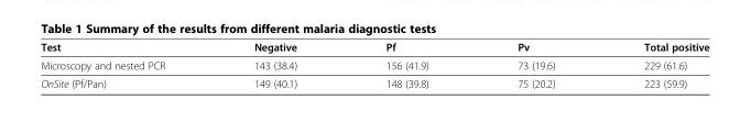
<table><thead><tr><td>Test</td><td>Negative</td><td>Pf</td><td>Pv</td><td>Total positive</td></tr></thead><tbody><tr><td>Microscopy and nested PCR</td><td>143 (38.4)</td><td>156 (41.9)</td><td>73 (19.6)</td><td>229 (61.6)</td></tr><tr><td>OnSite (Pf/Pan)</td><td>149 (40.1)</td><td>148 (39.8)</td><td>75 (20.2)</td><td>223 (59.9)</td></tr></tbody></table>